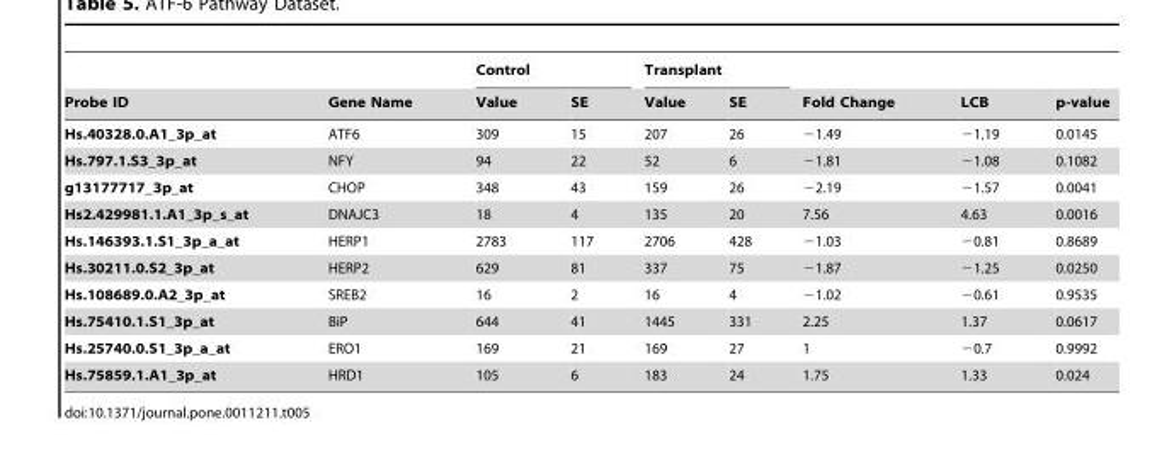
<table><thead><tr><td rowspan="2">Probe ID</td><td rowspan="2">Gene Name</td><td colspan="2">Control</td><td colspan="2">Transplant</td><td rowspan="2">Fold Change</td><td rowspan="2">LCB</td><td rowspan="2">p-value</td></tr><tr><td>Value</td><td>SE</td><td>Value</td><td>SE</td></tr></thead><tbody><tr><td>Hs.40328.0.A1_3p_at</td><td>ATF6</td><td>309</td><td>15</td><td>207</td><td>26</td><td>−1.49</td><td>−1.19</td><td>0.0145</td></tr><tr><td>Hs.797.1.S3_3p_at</td><td>NFY</td><td>94</td><td>22</td><td>52</td><td>6</td><td>−1.81</td><td>−1.08</td><td>0.1082</td></tr><tr><td>g13177717_3p_at</td><td>CHOP</td><td>348</td><td>43</td><td>159</td><td>26</td><td>−2.19</td><td>−1.57</td><td>0.0041</td></tr><tr><td>Hs2.429981.1.A1_3p_s_at</td><td>DNAJC3</td><td>18</td><td>4</td><td>135</td><td>20</td><td>7.56</td><td>4.63</td><td>0.0016</td></tr><tr><td>Hs.146393.1.S1_3p_a_at</td><td>HERP1</td><td>2783</td><td>117</td><td>2706</td><td>428</td><td>−1.03</td><td>−0.81</td><td>0.8689</td></tr><tr><td>Hs.30211.0.S2_3p_at</td><td>HERP2</td><td>629</td><td>81</td><td>337</td><td>75</td><td>−1.87</td><td>−1.25</td><td>0.0250</td></tr><tr><td>Hs.108689.0.A2_3p_at</td><td>SREB2</td><td>16</td><td>2</td><td>16</td><td>4</td><td>−1.02</td><td>−0.61</td><td>0.9535</td></tr><tr><td>Hs.75410.1.S1_3p_at</td><td>BiP</td><td>644</td><td>41</td><td>1445</td><td>331</td><td>2.25</td><td>1.37</td><td>0.0617</td></tr><tr><td>Hs.25740.0.S1_3p_a_at</td><td>ERO1</td><td>169</td><td>21</td><td>169</td><td>27</td><td>1</td><td>−0.7</td><td>0.9992</td></tr><tr><td>Hs.75859.1.A1_3p_at</td><td>HRD1</td><td>105</td><td>6</td><td>183</td><td>24</td><td>1.75</td><td>1.33</td><td>0.024</td></tr></tbody></table>